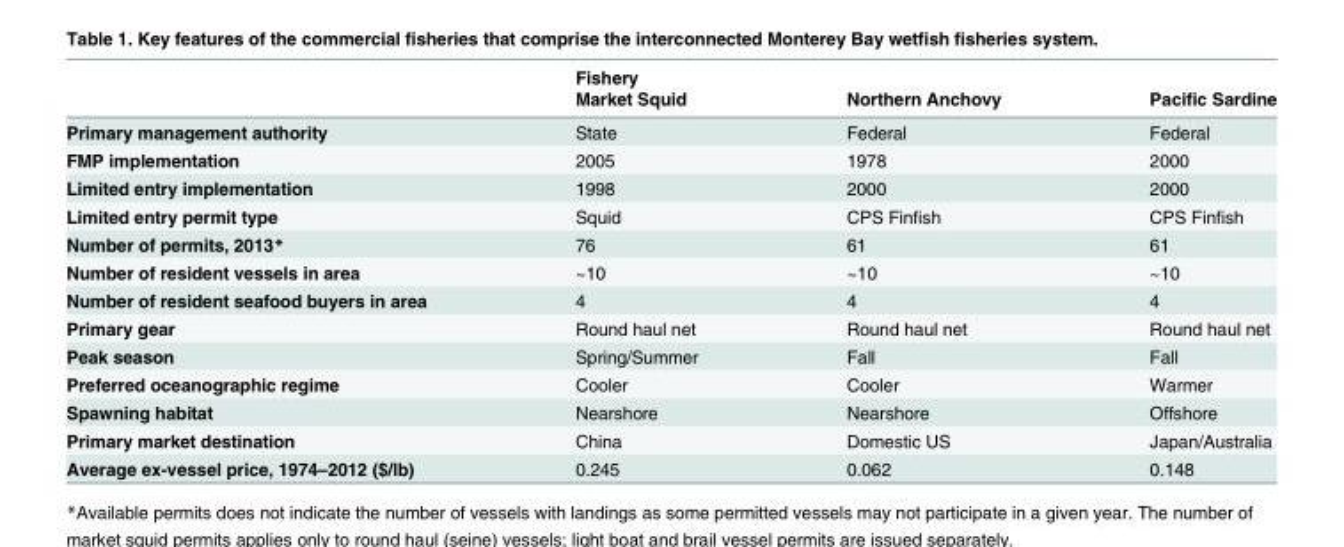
<table><thead><tr><td rowspan="2"></td><td rowspan="2">Fishery Market Squid</td><td rowspan="2">Northern Anchovy</td><td rowspan="2">Pacific Sardine</td></tr><tr></tr></thead><tbody><tr><td>Primary management authority</td><td>State</td><td>Federal</td><td>Federal</td></tr><tr><td>FMP implementation</td><td>2005</td><td>1978</td><td>2000</td></tr><tr><td>Limited entry implementation</td><td>1998</td><td>2000</td><td>2000</td></tr><tr><td>Limited entry permit type</td><td>Squid</td><td>CPS Finfish</td><td>CPS Finfish</td></tr><tr><td>Number of permits, 2013*</td><td>76</td><td>61</td><td>61</td></tr><tr><td>Number of resident vessels in area</td><td>~10</td><td>~10</td><td>~10</td></tr><tr><td>Number of resident seafood buyers in area</td><td>4</td><td>4</td><td>4</td></tr><tr><td>Primary gear</td><td>Round haul net</td><td>Round haul net</td><td>Round haul net</td></tr><tr><td>Peak season</td><td>Spring/Summer</td><td>Fall</td><td>Fall</td></tr><tr><td>Preferred oceanographic regime</td><td>Cooler</td><td>Cooler</td><td>Warmer</td></tr><tr><td>Spawning habitat</td><td>Nearshore</td><td>Nearshore</td><td>Offshore</td></tr><tr><td>Primary market destination</td><td>China</td><td>Domestic US</td><td>Japan/Australia</td></tr><tr><td>Average ex-vessel price, 1974–2012 ($/lb)</td><td>0.245</td><td>0.062</td><td>0.148</td></tr></tbody></table>